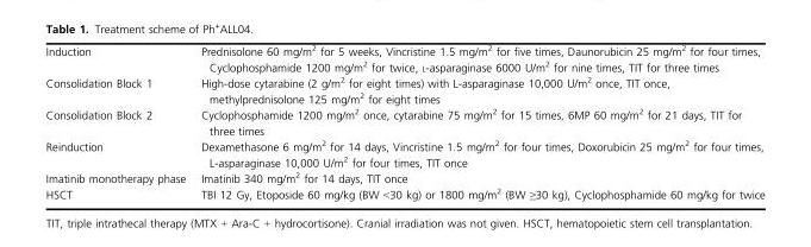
<table><tbody><tr><td>Induction</td><td>Prednisolone 60 mg/m<sup>2</sup> for 5 weeks, Vincristine 1.5 mg/m<sup>2</sup> for five times, Daunorubicin 25 mg/m<sup>2</sup> for four times, Cyclophosphamide 1200 mg/m<sup>2</sup> for twice, L-asparaginase 6000 U/m<sup>2</sup> for nine times, TIT for three times</td></tr><tr><td>Consolidation Block 1</td><td>High-dose cytarabine (2 g/m<sup>2</sup> for eight times) with L-asparaginase 10,000 U/m<sup>2</sup> once, TIT once, methylprednisolone 125 mg/m<sup>2</sup> for eight times</td></tr><tr><td>Consolidation Block 2</td><td>Cyclophosphamide 1200 mg/m<sup>2</sup> once, cytarabine 75 mg/m<sup>2</sup> for 15 times, 6MP 60 mg/m<sup>2</sup> for 21 days, TIT for three times</td></tr><tr><td>Reinduction</td><td>Dexamethasone 6 mg/m<sup>2</sup> for 14 days, Vincristine 1.5 mg/m<sup>2</sup> for four times, Doxorubicin 25 mg/m<sup>2</sup> for four times, L-asparaginase 10,000 U/m<sup>2</sup> for four times, TIT once</td></tr><tr><td>Imatinib monotherapy phase</td><td>Imatinib 340 mg/m<sup>2</sup> for 14 days, TIT once</td></tr><tr><td>HSCT</td><td>TBI 12 Gy, Etoposide 60 mg/kg (BW &lt;30 kg) or 1800 mg/m<sup>2</sup> (BW ≥30 kg), Cyclophosphamide 60 mg/kg for twice</td></tr></tbody></table>